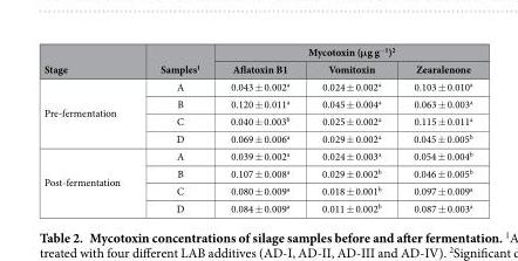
<table><thead><tr><td rowspan="2">Stage</td><td rowspan="2">Samples<sup>1</sup></td><td colspan="3">Mycotoxin (μg g<sup>−1</sup>)<sup>2</sup></td></tr><tr><td>Aflatoxin B1</td><td>Vomitoxin</td><td>Zearalenone</td></tr></thead><tbody><tr><td rowspan="4">Pre-fermentation</td><td>A</td><td>0.043 ± 0.002<sup>a</sup></td><td>0.024 ± 0.002<sup>a</sup></td><td>0.103 ± 0.010<sup>a</sup></td></tr><tr><td>B</td><td>0.120 ± 0.011<sup>a</sup></td><td>0.045 ± 0.004<sup>a</sup></td><td>0.063 ± 0.003<sup>a</sup></td></tr><tr><td>C</td><td>0.040 ± 0.003<sup>b</sup></td><td>0.025 ± 0.002<sup>a</sup></td><td>0.115 ± 0.011<sup>a</sup></td></tr><tr><td>D</td><td>0.069 ± 0.006<sup>a</sup></td><td>0.029 ± 0.002<sup>a</sup></td><td>0.045 ± 0.005<sup>b</sup></td></tr><tr><td rowspan="4">Post-fermentation</td><td>A</td><td>0.039 ± 0.002<sup>a</sup></td><td>0.024 ± 0.003<sup>a</sup></td><td>0.054 ± 0.004<sup>b</sup></td></tr><tr><td>B</td><td>0.107 ± 0.008<sup>a</sup></td><td>0.029 ± 0.002<sup>b</sup></td><td>0.046 ± 0.005<sup>b</sup></td></tr><tr><td>C</td><td>0.080 ± 0.009<sup>a</sup></td><td>0.018 ± 0.001<sup>b</sup></td><td>0.097 ± 0.009<sup>a</sup></td></tr><tr><td>D</td><td>0.084 ± 0.009<sup>a</sup></td><td>0.011 ± 0.002<sup>b</sup></td><td>0.087 ± 0.003<sup>a</sup></td></tr></tbody></table>